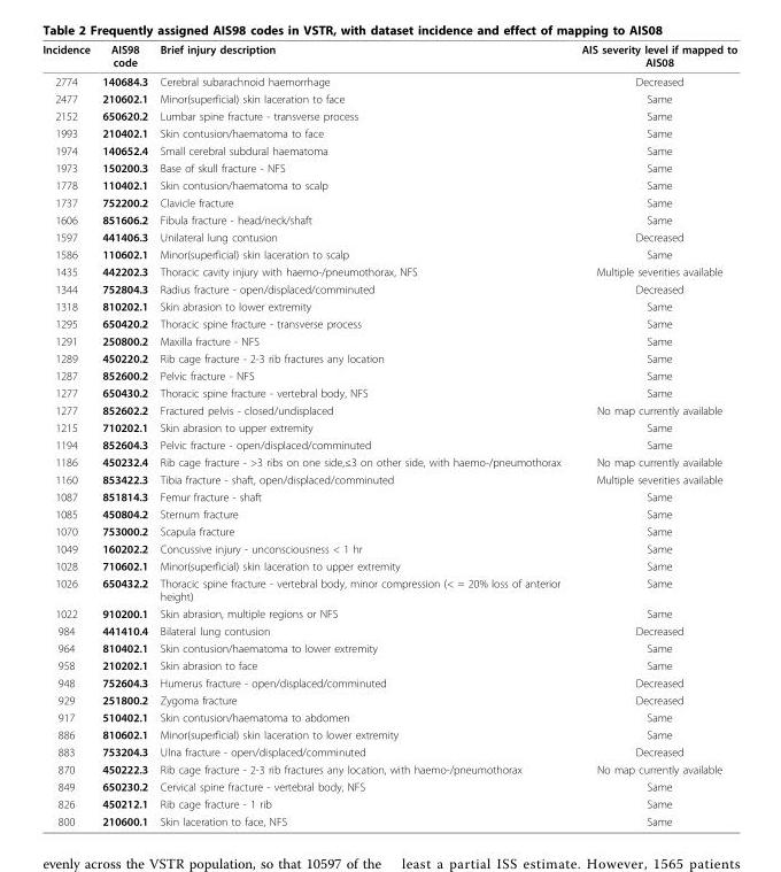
<table><thead><tr><td>Incidence</td><td>AIS98 code</td><td>Brief injury description</td><td>AIS severity level if mapped to AIS08</td></tr></thead><tbody><tr><td>2774</td><td>140684.3</td><td>Cerebral subarachnoid haemorrhage</td><td>Decreased</td></tr><tr><td>2477</td><td>210602.1</td><td>Minor(superficial) skin laceration to face</td><td>Same</td></tr><tr><td>2152</td><td>650620.2</td><td>Lumbar spine fracture - transverse process</td><td>Same</td></tr><tr><td>1993</td><td>210402.1</td><td>Skin contusion/haematoma to face</td><td>Same</td></tr><tr><td>1974</td><td>140652.4</td><td>Small cerebral subdural haematoma</td><td>Same</td></tr><tr><td>1973</td><td>150200.3</td><td>Base of skull fracture - NFS</td><td>Same</td></tr><tr><td>1778</td><td>110402.1</td><td>Skin contusion/haematoma to scalp</td><td>Same</td></tr><tr><td>1737</td><td>752200.2</td><td>Clavicle fracture</td><td>Same</td></tr><tr><td>1606</td><td>851606.2</td><td>Fibula fracture - head/neck/shaft</td><td>Same</td></tr><tr><td>1597</td><td>441406.3</td><td>Unilateral lung contusion</td><td>Decreased</td></tr><tr><td>1586</td><td>110602.1</td><td>Minor(superficial) skin laceration to scalp</td><td>Same</td></tr><tr><td>1435</td><td>442202.3</td><td>Thoracic cavity injury with haemo-/pneumothorax, NFS</td><td>Multiple severities available</td></tr><tr><td>1344</td><td>752804.3</td><td>Radius fracture - open/displaced/comminuted</td><td>Decreased</td></tr><tr><td>1318</td><td>810202.1</td><td>Skin abrasion to lower extremity</td><td>Same</td></tr><tr><td>1295</td><td>650420.2</td><td>Thoracic spine fracture - transverse process</td><td>Same</td></tr><tr><td>1291</td><td>250800.2</td><td>Maxilla fracture - NFS</td><td>Same</td></tr><tr><td>1289</td><td>450220.2</td><td>Rib cage fracture - 2-3 rib fractures any location</td><td>Same</td></tr><tr><td>1287</td><td>852600.2</td><td>Pelvic fracture - NFS</td><td>Same</td></tr><tr><td>1277</td><td>650430.2</td><td>Thoracic spine fracture - vertebral body, NFS</td><td>Same</td></tr><tr><td>1277</td><td>852602.2</td><td>Fractured pelvis - closed/undisplaced</td><td>No map currently available</td></tr><tr><td>1215</td><td>710202.1</td><td>Skin abrasion to upper extremity</td><td>Same</td></tr><tr><td>1194</td><td>852604.3</td><td>Pelvic fracture - open/displaced/comminuted</td><td>Same</td></tr><tr><td>1186</td><td>450232.4</td><td>Rib cage fracture - &gt;3 ribs on one side,≤3 on other side, with haemo-/pneumothorax</td><td>No map currently available</td></tr><tr><td>1160</td><td>853422.3</td><td>Tibia fracture - shaft, open/displaced/comminuted</td><td>Multiple severities available</td></tr><tr><td>1087</td><td>851814.3</td><td>Femur fracture - shaft</td><td>Same</td></tr><tr><td>1085</td><td>450804.2</td><td>Sternum fracture</td><td>Same</td></tr><tr><td>1070</td><td>753000.2</td><td>Scapula fracture</td><td>Same</td></tr><tr><td>1049</td><td>160202.2</td><td>Concussive injury - unconsciousness &lt; 1 hr</td><td>Same</td></tr><tr><td>1028</td><td>710602.1</td><td>Minor(superficial) skin laceration to upper extremity</td><td>Same</td></tr><tr><td>1026</td><td>650432.2</td><td>Thoracic spine fracture - vertebral body, minor compression (&lt; = 20% loss of anterior height)</td><td>Same</td></tr><tr><td>1022</td><td>910200.1</td><td>Skin abrasion, multiple regions or NFS</td><td>Same</td></tr><tr><td>984</td><td>441410.4</td><td>Bilateral lung contusion</td><td>Decreased</td></tr><tr><td>964</td><td>810402.1</td><td>Skin contusion/haematoma to lower extremity</td><td>Same</td></tr><tr><td>958</td><td>210202.1</td><td>Skin abrasion to face</td><td>Same</td></tr><tr><td>948</td><td>752604.3</td><td>Humerus fracture - open/displaced/comminuted</td><td>Decreased</td></tr><tr><td>929</td><td>251800.2</td><td>Zygoma fracture</td><td>Decreased</td></tr><tr><td>917</td><td>510402.1</td><td>Skin contusion/haematoma to abdomen</td><td>Same</td></tr><tr><td>886</td><td>810602.1</td><td>Minor(superficial) skin laceration to lower extremity</td><td>Same</td></tr><tr><td>883</td><td>753204.3</td><td>Ulna fracture - open/displaced/comminuted</td><td>Decreased</td></tr><tr><td>870</td><td>450222.3</td><td>Rib cage fracture - 2-3 rib fractures any location, with haemo-/pneumothorax</td><td>No map currently available</td></tr><tr><td>849</td><td>650230.2</td><td>Cervical spine fracture - vertebral body, NFS</td><td>Same</td></tr><tr><td>826</td><td>450212.1</td><td>Rib cage fracture - 1 rib</td><td>Same</td></tr><tr><td>800</td><td>210600.1</td><td>Skin laceration to face, NFS</td><td>Same</td></tr></tbody></table>